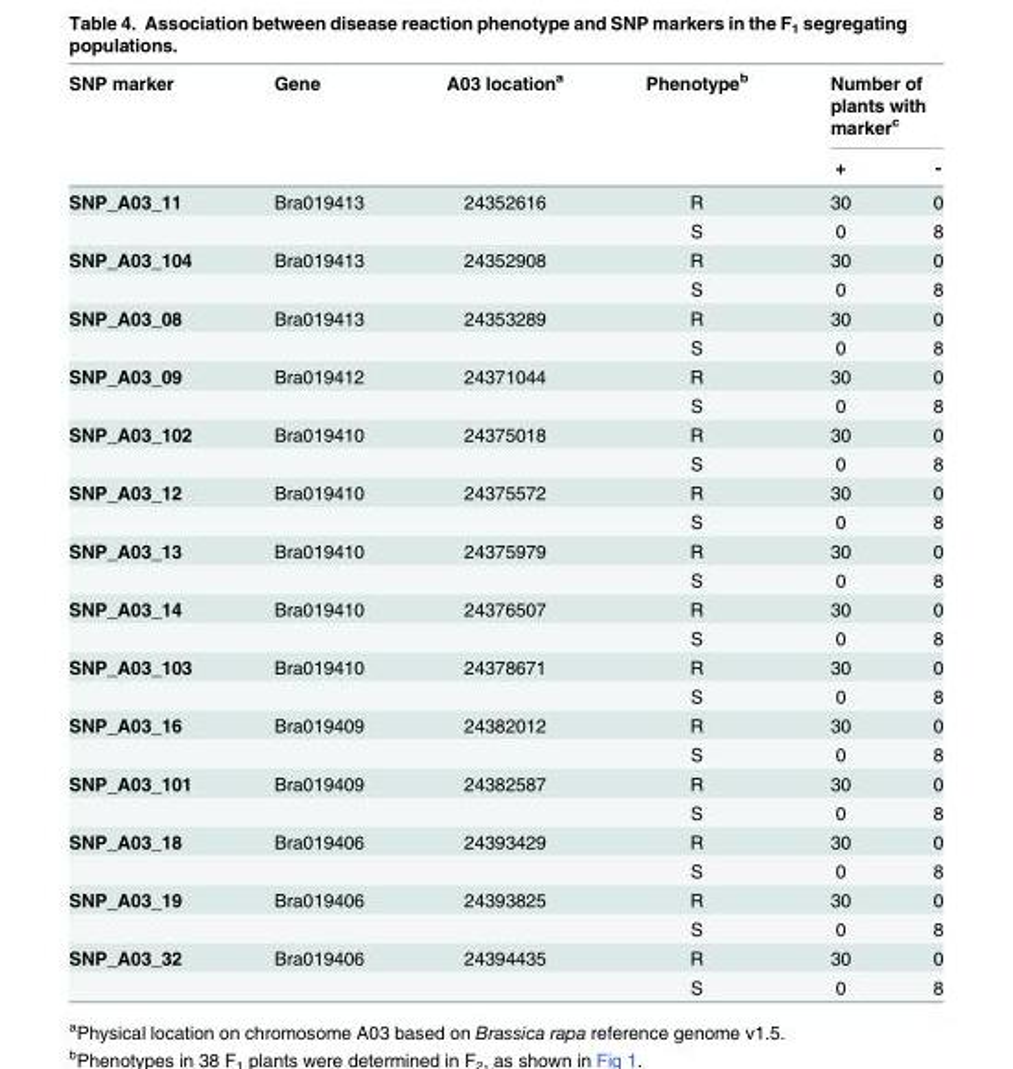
<table><thead><tr><td rowspan="2">SNP marker</td><td rowspan="2">Gene</td><td rowspan="2">A03 location<sup>a</sup></td><td rowspan="2">Phenotype<sup>b</sup></td><td colspan="2">Number of plants with marker<sup>c</sup></td></tr><tr><td>+</td><td>-</td></tr></thead><tbody><tr><td rowspan="2">SNP_A03_11</td><td>Bra019413</td><td>24352616</td><td>R</td><td>30</td><td>0</td></tr><tr><td></td><td></td><td>S</td><td>0</td><td>8</td></tr><tr><td rowspan="2">SNP_A03_104</td><td>Bra019413</td><td>24352908</td><td>R</td><td>30</td><td>0</td></tr><tr><td></td><td></td><td>S</td><td>0</td><td>8</td></tr><tr><td rowspan="2">SNP_A03_08</td><td>Bra019413</td><td>24353289</td><td>R</td><td>30</td><td>0</td></tr><tr><td></td><td></td><td>S</td><td>0</td><td>8</td></tr><tr><td rowspan="2">SNP_A03_09</td><td>Bra019412</td><td>24371044</td><td>R</td><td>30</td><td>0</td></tr><tr><td></td><td></td><td>S</td><td>0</td><td>8</td></tr><tr><td rowspan="2">SNP_A03_102</td><td>Bra019410</td><td>24375018</td><td>R</td><td>30</td><td>0</td></tr><tr><td></td><td></td><td>S</td><td>0</td><td>8</td></tr><tr><td rowspan="2">SNP_A03_12</td><td>Bra019410</td><td>24375572</td><td>R</td><td>30</td><td>0</td></tr><tr><td></td><td></td><td>S</td><td>0</td><td>8</td></tr><tr><td rowspan="2">SNP_A03_13</td><td>Bra019410</td><td>24375979</td><td>R</td><td>30</td><td>0</td></tr><tr><td></td><td></td><td>S</td><td>0</td><td>8</td></tr><tr><td rowspan="2">SNP_A03_14</td><td>Bra019410</td><td>24376507</td><td>R</td><td>30</td><td>0</td></tr><tr><td></td><td></td><td>S</td><td>0</td><td>8</td></tr><tr><td rowspan="2">SNP_A03_103</td><td>Bra019410</td><td>24378671</td><td>R</td><td>30</td><td>0</td></tr><tr><td></td><td></td><td>S</td><td>0</td><td>8</td></tr><tr><td rowspan="2">SNP_A03_16</td><td>Bra019409</td><td>24382012</td><td>R</td><td>30</td><td>0</td></tr><tr><td></td><td></td><td>S</td><td>0</td><td>8</td></tr><tr><td rowspan="2">SNP_A03_101</td><td>Bra019409</td><td>24382587</td><td>R</td><td>30</td><td>0</td></tr><tr><td></td><td></td><td>S</td><td>0</td><td>8</td></tr><tr><td rowspan="2">SNP_A03_18</td><td>Bra019406</td><td>24393429</td><td>R</td><td>30</td><td>0</td></tr><tr><td></td><td></td><td>S</td><td>0</td><td>8</td></tr><tr><td rowspan="2">SNP_A03_19</td><td>Bra019406</td><td>24393825</td><td>R</td><td>30</td><td>0</td></tr><tr><td></td><td></td><td>S</td><td>0</td><td>8</td></tr><tr><td rowspan="2">SNP_A03_32</td><td>Bra019406</td><td>24394435</td><td>R</td><td>30</td><td>0</td></tr><tr><td></td><td></td><td>S</td><td>0</td><td>8</td></tr></tbody></table>